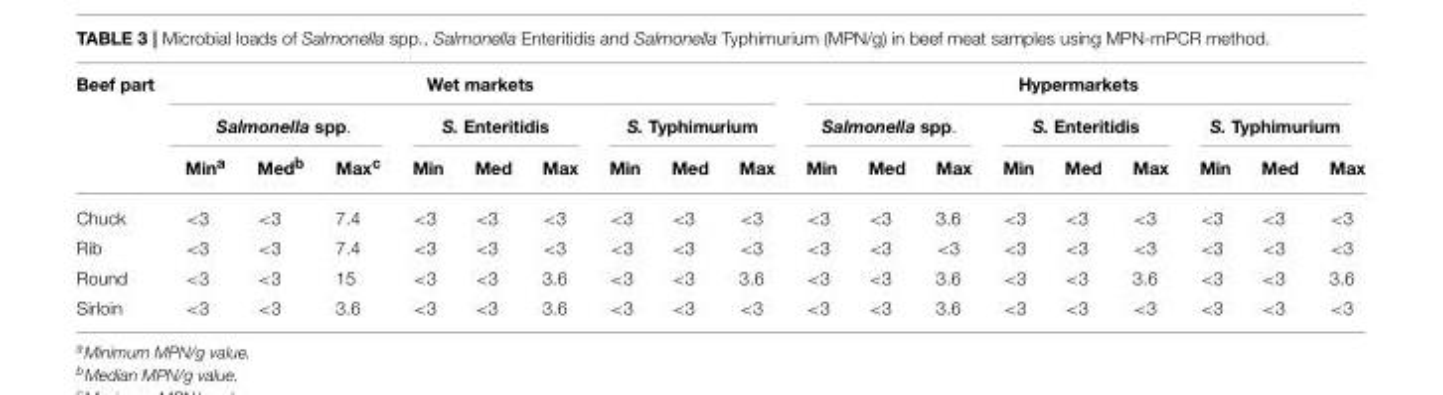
<table><thead><tr><td rowspan="3">Beef part</td><td colspan="9">Wet markets</td><td colspan="9">Hypermarkets</td></tr><tr><td colspan="3">Salmonella spp.</td><td colspan="3">S. Enteritidis</td><td colspan="3">S. Typhimurium</td><td colspan="3">Salmonella spp.</td><td colspan="3">S. Enteritidis</td><td colspan="3">S. Typhimurium</td></tr><tr><td>Min<sup>a</sup></td><td>Med<sup>b</sup></td><td>Max<sup>c</sup></td><td>Min</td><td>Med</td><td>Max</td><td>Min</td><td>Med</td><td>Max</td><td>Min</td><td>Med</td><td>Max</td><td>Min</td><td>Med</td><td>Max</td><td>Min</td><td>Med</td><td>Max</td></tr></thead><tbody><tr><td>Chuck</td><td>&lt;3</td><td>&lt;3</td><td>7.4</td><td>&lt;3</td><td>&lt;3</td><td>&lt;3</td><td>&lt;3</td><td>&lt;3</td><td>&lt;3</td><td>&lt;3</td><td>&lt;3</td><td>3.6</td><td>&lt;3</td><td>&lt;3</td><td>&lt;3</td><td>&lt;3</td><td>&lt;3</td><td>&lt;3</td></tr><tr><td>Rib</td><td>&lt;3</td><td>&lt;3</td><td>7.4</td><td>&lt;3</td><td>&lt;3</td><td>&lt;3</td><td>&lt;3</td><td>&lt;3</td><td>&lt;3</td><td>&lt;3</td><td>&lt;3</td><td>&lt;3</td><td>&lt;3</td><td>&lt;3</td><td>&lt;3</td><td>&lt;3</td><td>&lt;3</td><td>&lt;3</td></tr><tr><td>Round</td><td>&lt;3</td><td>&lt;3</td><td>15</td><td>&lt;3</td><td>&lt;3</td><td>3.6</td><td>&lt;3</td><td>&lt;3</td><td>3.6</td><td>&lt;3</td><td>&lt;3</td><td>3.6</td><td>&lt;3</td><td>&lt;3</td><td>3.6</td><td>&lt;3</td><td>&lt;3</td><td>3.6</td></tr><tr><td>Sirloin</td><td>&lt;3</td><td>&lt;3</td><td>3.6</td><td>&lt;3</td><td>&lt;3</td><td>3.6</td><td>&lt;3</td><td>&lt;3</td><td>&lt;3</td><td>&lt;3</td><td>&lt;3</td><td>3.6</td><td>&lt;3</td><td>&lt;3</td><td>&lt;3</td><td>&lt;3</td><td>&lt;3</td><td>&lt;3</td></tr></tbody></table>